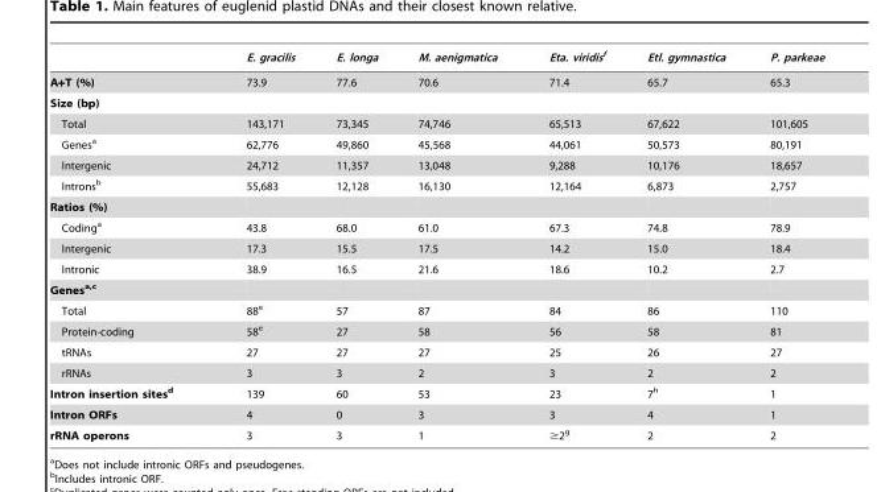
<table><thead><tr><td></td><td>E. gracilis</td><td>E. longa</td><td>M. aenigmatica</td><td>Eta. viridisf</td><td>Etl. gymnastica</td><td>P. parkeae</td></tr></thead><tbody><tr><td>A+T (%)</td><td>73.9</td><td>77.6</td><td>70.6</td><td>71.4</td><td>65.7</td><td>65.3</td></tr><tr><td colspan="7">Size (bp)</td></tr><tr><td>Total</td><td>143,171</td><td>73,345</td><td>74,746</td><td>65,513</td><td>67,622</td><td>101,605</td></tr><tr><td>Genes<sup>a</sup></td><td>62,776</td><td>49,860</td><td>45,568</td><td>44,061</td><td>50,573</td><td>80,191</td></tr><tr><td>Intergenic</td><td>24,712</td><td>11,357</td><td>13,048</td><td>9,288</td><td>10,176</td><td>18,657</td></tr><tr><td>Introns<sup>b</sup></td><td>55,683</td><td>12,128</td><td>16,130</td><td>12,164</td><td>6,873</td><td>2,757</td></tr><tr><td colspan="7">Ratios (%)</td></tr><tr><td>Coding<sup>a</sup></td><td>43.8</td><td>68.0</td><td>61.0</td><td>67.3</td><td>74.8</td><td>78.9</td></tr><tr><td>Intergenic</td><td>17.3</td><td>15.5</td><td>17.5</td><td>14.2</td><td>15.0</td><td>18.4</td></tr><tr><td>Intronic</td><td>38.9</td><td>16.5</td><td>21.6</td><td>18.6</td><td>10.2</td><td>2.7</td></tr><tr><td colspan="7">Genesa,c</td></tr><tr><td>Total</td><td>88<sup>e</sup></td><td>57</td><td>87</td><td>84</td><td>86</td><td>110</td></tr><tr><td>Protein-coding</td><td>58<sup>e</sup></td><td>27</td><td>58</td><td>56</td><td>58</td><td>81</td></tr><tr><td>tRNAs</td><td>27</td><td>27</td><td>27</td><td>25</td><td>26</td><td>27</td></tr><tr><td>rRNAs</td><td>3</td><td>3</td><td>2</td><td>3</td><td>2</td><td>2</td></tr><tr><td>Intron insertion sitesd</td><td>139</td><td>60</td><td>53</td><td>23</td><td>7<sup>h</sup></td><td>1</td></tr><tr><td>Intron ORFs</td><td>4</td><td>0</td><td>3</td><td>3</td><td>4</td><td>1</td></tr><tr><td>rRNA operons</td><td>3</td><td>3</td><td>1</td><td>≥2<sup>g</sup></td><td>2</td><td>2</td></tr></tbody></table>